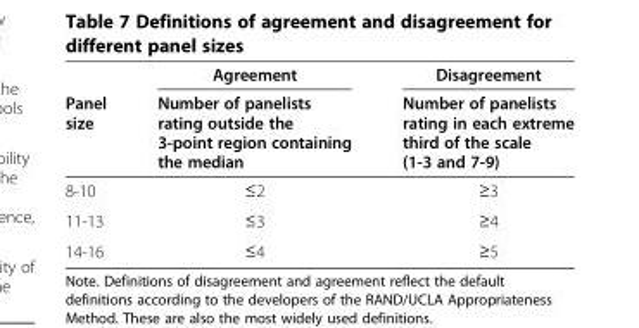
<table><thead><tr><td rowspan="2">Panel size</td><td rowspan="2">Agreement Number of panelists rating outside the 3-point region containing the median</td><td rowspan="2">Disagreement Number of panelists rating in each extreme third of the scale (1-3 and 7-9)</td></tr><tr></tr></thead><tbody><tr><td>8-10</td><td>≤2</td><td>≥3</td></tr><tr><td>11-13</td><td>≤3</td><td>≥4</td></tr><tr><td>14-16</td><td>≤4</td><td>≥5</td></tr></tbody></table>